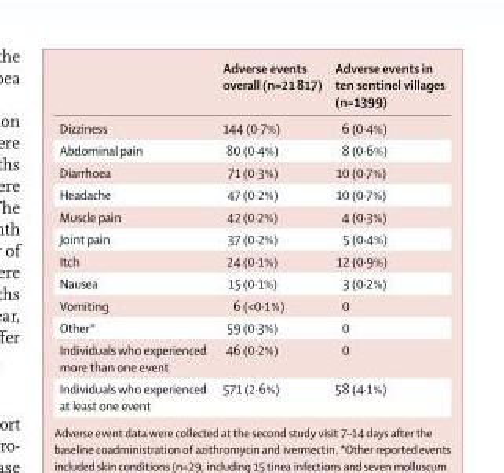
<table><thead><tr><td></td><td>Adverse events overall (n=21 817)</td><td>Adverse events in ten sentinel villages (n=1399)</td></tr></thead><tbody><tr><td>Dizziness</td><td>144 (0·7%)</td><td>6 (0·4%)</td></tr><tr><td>Abdominal pain</td><td>80 (0·4%)</td><td>8 (0·6%)</td></tr><tr><td>Diarrhoea</td><td>71 (0·3%)</td><td>10 (0·7%)</td></tr><tr><td>Headache</td><td>47 (0·2%)</td><td>10 (0·7%)</td></tr><tr><td>Muscle pain</td><td>42 (0·2%)</td><td>4 (0·3%)</td></tr><tr><td>Joint pain</td><td>37 (0·2%)</td><td>5 (0·4%)</td></tr><tr><td>Itch</td><td>24 (0·1%)</td><td>12 (0·9%)</td></tr><tr><td>Nausea</td><td>15 (0·1%)</td><td>3 (0·2%)</td></tr><tr><td>Vomiting</td><td>6 (&lt;0·1%)</td><td>0</td></tr><tr><td>Other*</td><td>59 (0·3%)</td><td>0</td></tr><tr><td>Individuals who experienced more than one event</td><td>46 (0·2%)</td><td>0</td></tr><tr><td>Individuals who experienced at least one event</td><td>571 (2·6%)</td><td>58 (4·1%)</td></tr></tbody></table>